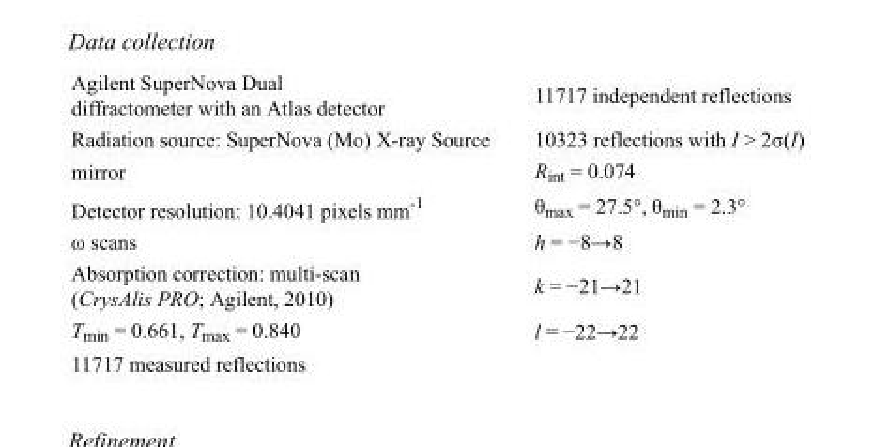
<table><tbody><tr><td>Agilent SuperNova Dual diffractometer with an Atlas detector</td><td>11717 independent reflections</td></tr><tr><td>Radiation source: SuperNova (Mo) X-ray Source</td><td>10323 reflections with I &gt; 2σ(I)</td></tr><tr><td>mirror</td><td>R<sub>int</sub> = 0.074</td></tr><tr><td>Detector resolution: 10.4041 pixels mm<sup>-1</sup></td><td>θ<sub>max</sub> = 27.5°, θ<sub>min</sub> = 2.3°</td></tr><tr><td>ω scans</td><td>h = −8→8</td></tr><tr><td>Absorption correction: multi-scan (CrysAlis PRO; Agilent, 2010)</td><td>k = −21→21</td></tr><tr><td>T<sub>min</sub> = 0.661, T<sub>max</sub> = 0.840</td><td>l = −22→22</td></tr><tr><td>11717 measured reflections</td><td></td></tr></tbody></table>